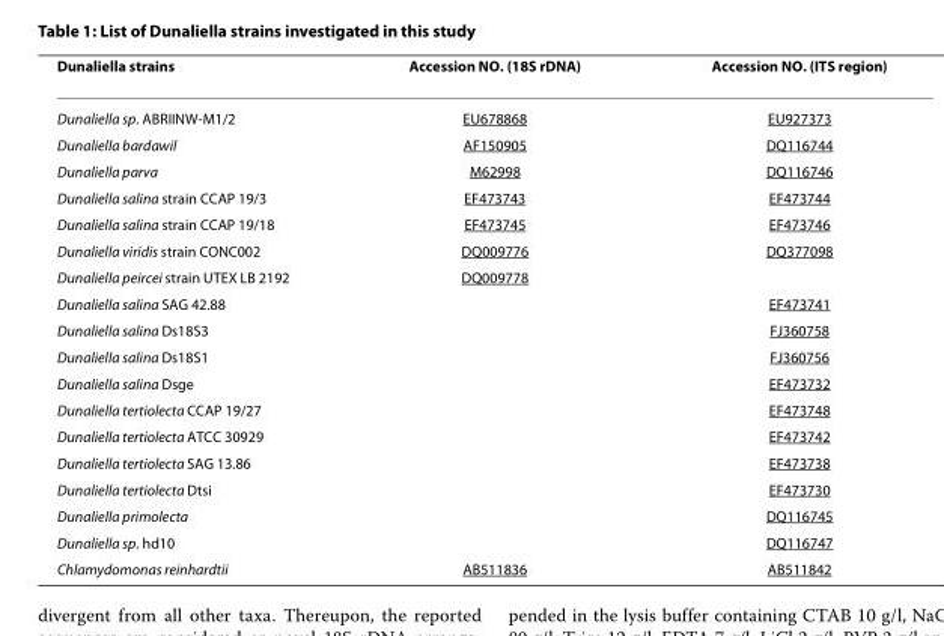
<table><thead><tr><td>Dunaliella strains</td><td>Accession NO. (18S rDNA)</td><td>Accession NO. (ITS region)</td></tr></thead><tbody><tr><td>Dunaliella sp. ABRIINW-M1/2</td><td>EU678868</td><td>EU927373</td></tr><tr><td>Dunaliella bardawil</td><td>AF150905</td><td>DQ116744</td></tr><tr><td>Dunaliella parva</td><td>M62998</td><td>DQ116746</td></tr><tr><td>Dunaliella salina strain CCAP 19/3</td><td>EF473743</td><td>EF473744</td></tr><tr><td>Dunaliella salina strain CCAP 19/18</td><td>EF473745</td><td>EF473746</td></tr><tr><td>Dunaliella viridis strain CONC002</td><td>DQ009776</td><td>DQ377098</td></tr><tr><td>Dunaliella peircei strain UTEX LB 2192</td><td>DQ009778</td><td></td></tr><tr><td>Dunaliella salina SAG 42.88</td><td></td><td>EF473741</td></tr><tr><td>Dunaliella salina Ds18S3</td><td></td><td>FJ360758</td></tr><tr><td>Dunaliella salina Ds18S1</td><td></td><td>FJ360756</td></tr><tr><td>Dunaliella salina Dsge</td><td></td><td>EF473732</td></tr><tr><td>Dunaliella tertiolecta CCAP 19/27</td><td></td><td>EF473748</td></tr><tr><td>Dunaliella tertiolecta ATCC 30929</td><td></td><td>EF473742</td></tr><tr><td>Dunaliella tertiolecta SAG 13.86</td><td></td><td>EF473738</td></tr><tr><td>Dunaliella tertiolecta Dtsi</td><td></td><td>EF473730</td></tr><tr><td>Dunaliella primolecta</td><td></td><td>DQ116745</td></tr><tr><td>Dunaliella sp. hd10</td><td></td><td>DQ116747</td></tr><tr><td>Chlamydomonas reinhardtii</td><td>AB511836</td><td>AB511842</td></tr></tbody></table>